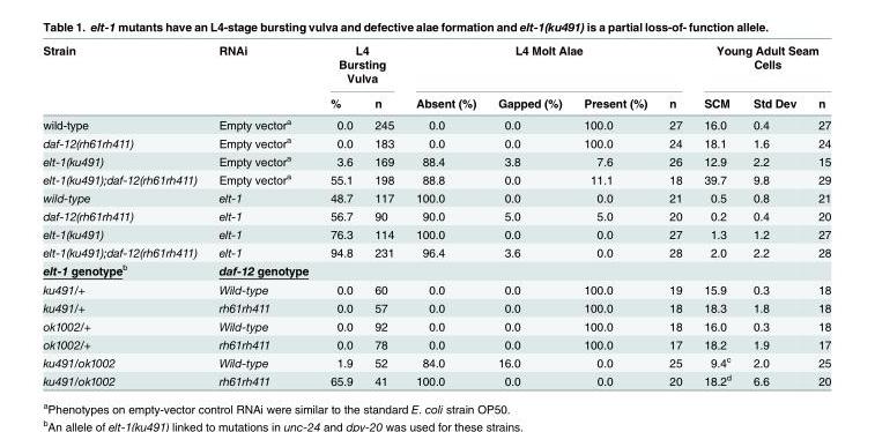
<table><thead><tr><td rowspan="2">Strain</td><td rowspan="2">RNAi</td><td colspan="2">L4 Bursting Vulva</td><td colspan="4">L4 Molt Alae</td><td colspan="3">Young Adult Seam Cells</td></tr><tr><td>%</td><td>n</td><td>Absent (%)</td><td>Gapped (%)</td><td>Present (%)</td><td>n</td><td>SCM</td><td>Std Dev</td><td>n</td></tr></thead><tbody><tr><td>wild-type</td><td>Empty vector<sup>a</sup></td><td>0.0</td><td>245</td><td>0.0</td><td>0.0</td><td>100.0</td><td>27</td><td>16.0</td><td>0.4</td><td>27</td></tr><tr><td>daf-12(rh61rh411)</td><td>Empty vector<sup>a</sup></td><td>0.0</td><td>183</td><td>0.0</td><td>0.0</td><td>100.0</td><td>24</td><td>18.1</td><td>1.6</td><td>24</td></tr><tr><td>elt-1(ku491)</td><td>Empty vector<sup>a</sup></td><td>3.6</td><td>169</td><td>88.4</td><td>3.8</td><td>7.6</td><td>26</td><td>12.9</td><td>2.2</td><td>15</td></tr><tr><td>elt-1(ku491);daf-12(rh61rh411)</td><td>Empty vector<sup>a</sup></td><td>55.1</td><td>198</td><td>88.8</td><td>0.0</td><td>11.1</td><td>18</td><td>39.7</td><td>9.8</td><td>29</td></tr><tr><td>wild-type</td><td>elt-1</td><td>48.7</td><td>117</td><td>100.0</td><td>0.0</td><td>0.0</td><td>21</td><td>0.5</td><td>0.8</td><td>21</td></tr><tr><td>daf-12(rh61rh411)</td><td>elt-1</td><td>56.7</td><td>90</td><td>90.0</td><td>5.0</td><td>5.0</td><td>20</td><td>0.2</td><td>0.4</td><td>20</td></tr><tr><td>elt-1(ku491)</td><td>elt-1</td><td>76.3</td><td>114</td><td>100.0</td><td>0.0</td><td>0.0</td><td>27</td><td>1.3</td><td>1.2</td><td>27</td></tr><tr><td>elt-1(ku491);daf-12(rh61rh411)</td><td>elt-1</td><td>94.8</td><td>231</td><td>96.4</td><td>3.6</td><td>0.0</td><td>28</td><td>2.0</td><td>2.2</td><td>28</td></tr><tr><td>elt-1 genotype<sup>b</sup></td><td>daf-12 genotype</td><td></td><td></td><td></td><td></td><td></td><td></td><td></td><td></td><td></td></tr><tr><td>ku491/+</td><td>Wild-type</td><td>0.0</td><td>60</td><td>0.0</td><td>0.0</td><td>100.0</td><td>19</td><td>15.9</td><td>0.3</td><td>18</td></tr><tr><td>ku491/+</td><td>rh61rh411</td><td>0.0</td><td>57</td><td>0.0</td><td>0.0</td><td>100.0</td><td>18</td><td>18.3</td><td>1.8</td><td>18</td></tr><tr><td>ok1002/+</td><td>Wild-type</td><td>0.0</td><td>92</td><td>0.0</td><td>0.0</td><td>100.0</td><td>18</td><td>16.0</td><td>0.3</td><td>18</td></tr><tr><td>ok1002/+</td><td>rh61rh411</td><td>0.0</td><td>78</td><td>0.0</td><td>0.0</td><td>100.0</td><td>17</td><td>18.2</td><td>1.9</td><td>17</td></tr><tr><td>ku491/ok1002</td><td>Wild-type</td><td>1.9</td><td>52</td><td>84.0</td><td>16.0</td><td>0.0</td><td>25</td><td>9.4<sup>c</sup></td><td>2.0</td><td>25</td></tr><tr><td>ku491/ok1002</td><td>rh61rh411</td><td>65.9</td><td>41</td><td>100.0</td><td>0.0</td><td>0.0</td><td>20</td><td>18.2<sup>d</sup></td><td>6.6</td><td>20</td></tr></tbody></table>